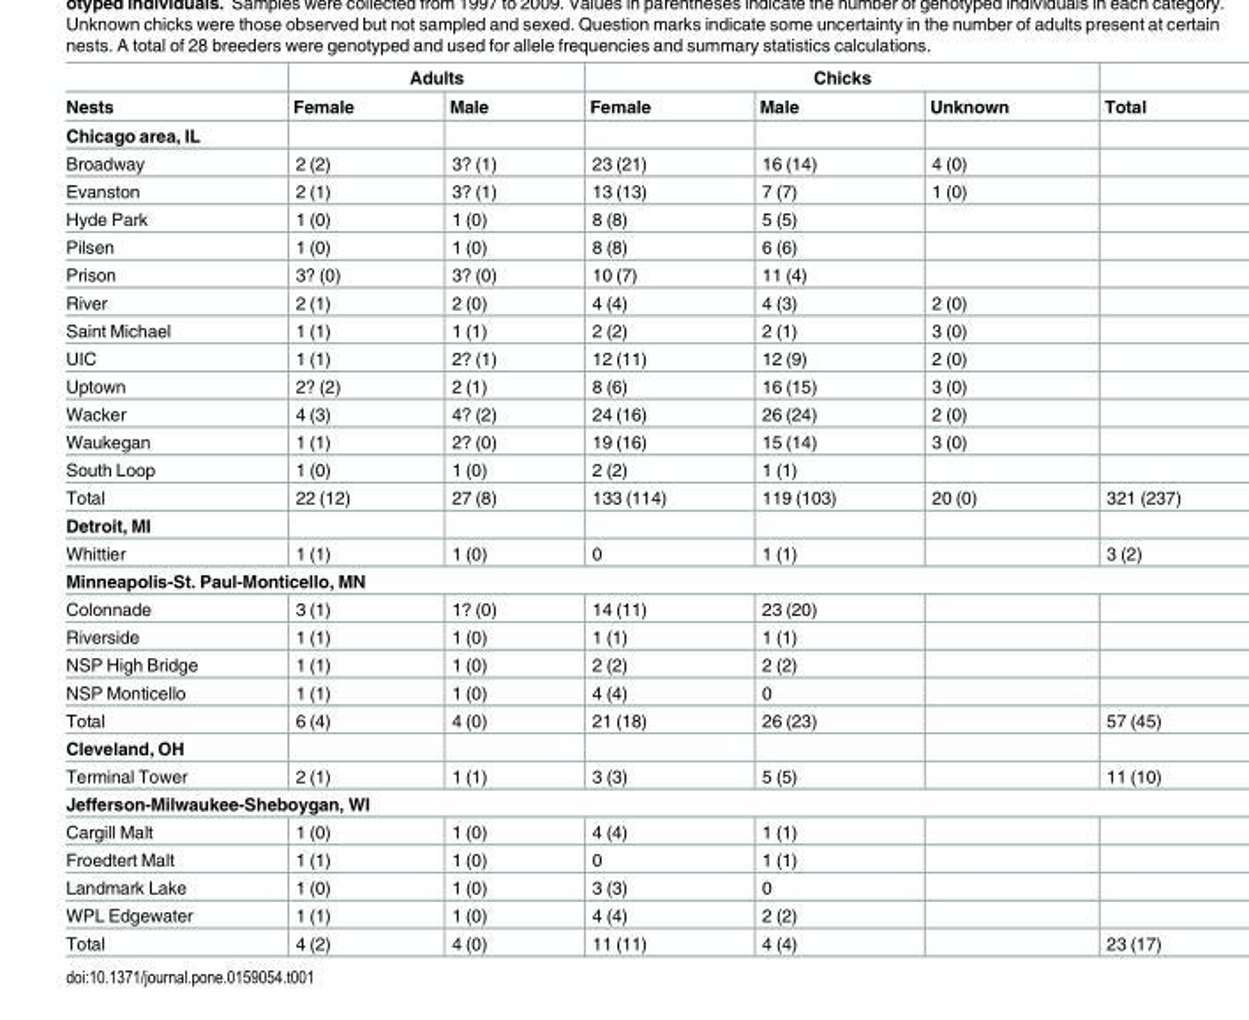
<table><thead><tr><td rowspan="2">Nests</td><td colspan="2">Adults</td><td colspan="3">Chicks</td><td rowspan="2">Total</td></tr><tr><td>Female</td><td>Male</td><td>Female</td><td>Male</td><td>Unknown</td></tr></thead><tbody><tr><td colspan="7">Chicago area, IL</td></tr><tr><td>Broadway</td><td>2 (2)</td><td>3? (1)</td><td>23 (21)</td><td>16 (14)</td><td>4 (0)</td><td></td></tr><tr><td>Evanston</td><td>2 (1)</td><td>3? (1)</td><td>13 (13)</td><td>7 (7)</td><td>1 (0)</td><td></td></tr><tr><td>Hyde Park</td><td>1 (0)</td><td>1 (0)</td><td>8 (8)</td><td>5 (5)</td><td></td><td></td></tr><tr><td>Pilsen</td><td>1 (0)</td><td>1 (0)</td><td>8 (8)</td><td>6 (6)</td><td></td><td></td></tr><tr><td>Prison</td><td>3? (0)</td><td>3? (0)</td><td>10 (7)</td><td>11 (4)</td><td></td><td></td></tr><tr><td>River</td><td>2 (1)</td><td>2 (0)</td><td>4 (4)</td><td>4 (3)</td><td>2 (0)</td><td></td></tr><tr><td>Saint Michael</td><td>1 (1)</td><td>1 (1)</td><td>2 (2)</td><td>2 (1)</td><td>3 (0)</td><td></td></tr><tr><td>UIC</td><td>1 (1)</td><td>2? (1)</td><td>12 (11)</td><td>12 (9)</td><td>2 (0)</td><td></td></tr><tr><td>Uptown</td><td>2? (2)</td><td>2 (1)</td><td>8 (6)</td><td>16 (15)</td><td>3 (0)</td><td></td></tr><tr><td>Wacker</td><td>4 (3)</td><td>4? (2)</td><td>24 (16)</td><td>26 (24)</td><td>2 (0)</td><td></td></tr><tr><td>Waukegan</td><td>1 (1)</td><td>2? (0)</td><td>19 (16)</td><td>15 (14)</td><td>3 (0)</td><td></td></tr><tr><td>South Loop</td><td>1 (0)</td><td>1 (0)</td><td>2 (2)</td><td>1 (1)</td><td></td><td></td></tr><tr><td>Total</td><td>22 (12)</td><td>27 (8)</td><td>133 (114)</td><td>119 (103)</td><td>20 (0)</td><td>321 (237)</td></tr><tr><td colspan="7">Detroit, MI</td></tr><tr><td>Whittier</td><td>1 (1)</td><td>1 (0)</td><td>0</td><td>1 (1)</td><td></td><td>3 (2)</td></tr><tr><td colspan="7">Minneapolis-St. Paul-Monticello, MN</td></tr><tr><td>Colonnade</td><td>3 (1)</td><td>1? (0)</td><td>14 (11)</td><td>23 (20)</td><td></td><td></td></tr><tr><td>Riverside</td><td>1 (1)</td><td>1 (0)</td><td>1 (1)</td><td>1 (1)</td><td></td><td></td></tr><tr><td>NSP High Bridge</td><td>1 (1)</td><td>1 (0)</td><td>2 (2)</td><td>2 (2)</td><td></td><td></td></tr><tr><td>NSP Monticello</td><td>1 (1)</td><td>1 (0)</td><td>4 (4)</td><td>0</td><td></td><td></td></tr><tr><td>Total</td><td>6 (4)</td><td>4 (0)</td><td>21 (18)</td><td>26 (23)</td><td></td><td>57 (45)</td></tr><tr><td colspan="7">Cleveland, OH</td></tr><tr><td>Terminal Tower</td><td>2 (1)</td><td>1 (1)</td><td>3 (3)</td><td>5 (5)</td><td></td><td>11 (10)</td></tr><tr><td colspan="7">Jefferson-Milwaukee-Sheboygan, WI</td></tr><tr><td>Cargill Malt</td><td>1 (0)</td><td>1 (0)</td><td>4 (4)</td><td>1 (1)</td><td></td><td></td></tr><tr><td>Froedtert Malt</td><td>1 (1)</td><td>1 (0)</td><td>0</td><td>1 (1)</td><td></td><td></td></tr><tr><td>Landmark Lake</td><td>1 (0)</td><td>1 (0)</td><td>3 (3)</td><td>0</td><td></td><td></td></tr><tr><td>WPL Edgewater</td><td>1 (1)</td><td>1 (0)</td><td>4 (4)</td><td>2 (2)</td><td></td><td></td></tr><tr><td>Total</td><td>4 (2)</td><td>4 (0)</td><td>11 (11)</td><td>4 (4)</td><td></td><td>23 (17)</td></tr></tbody></table>